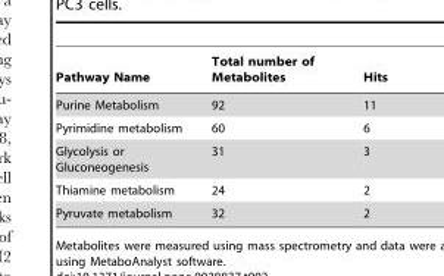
<table><thead><tr><td>Pathway Name</td><td>Total number of Metabolites</td><td>Hits</td></tr></thead><tbody><tr><td>Purine Metabolism</td><td>92</td><td>11</td></tr><tr><td>Pyrimidine metabolism</td><td>60</td><td>6</td></tr><tr><td>Glycolysis or Gluconeogenesis</td><td>31</td><td>3</td></tr><tr><td>Thiamine metabolism</td><td>24</td><td>2</td></tr><tr><td>Pyruvate metabolism</td><td>32</td><td>2</td></tr></tbody></table>